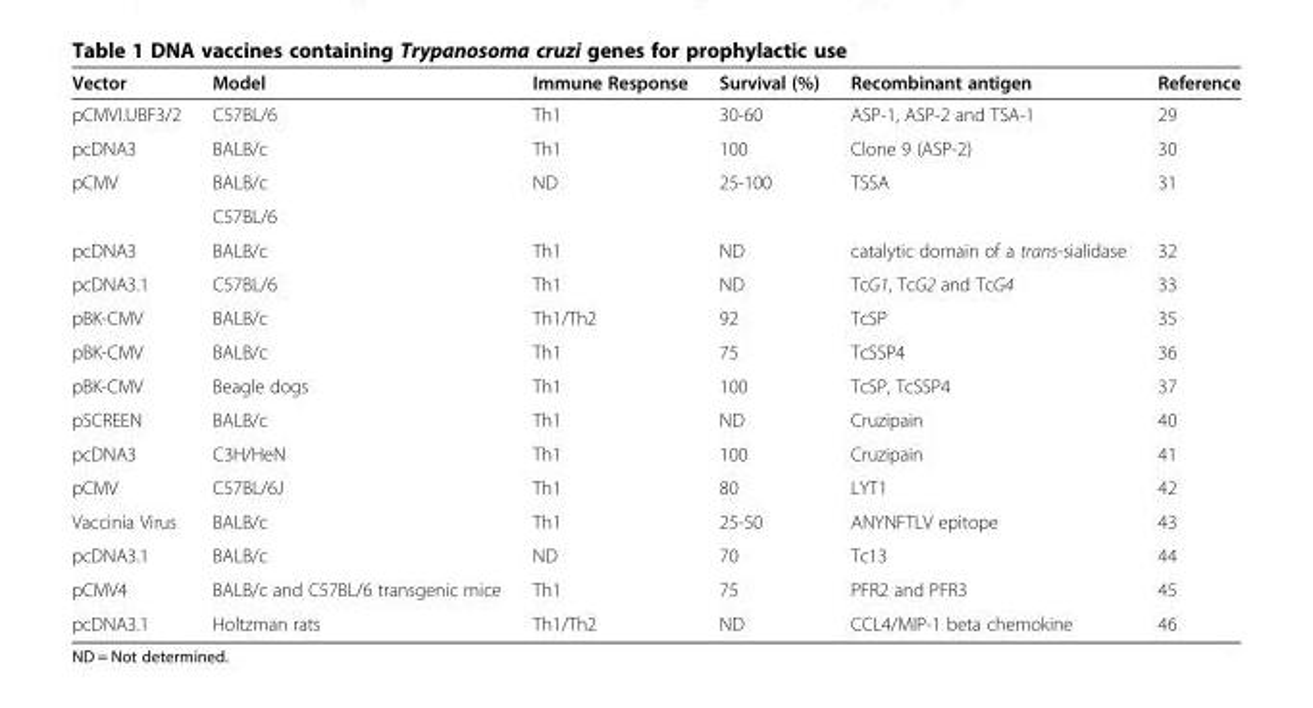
<table><thead><tr><td>Vector</td><td>Model</td><td>Immune Response</td><td>Survival (%)</td><td>Recombinant antigen</td><td>Reference</td></tr></thead><tbody><tr><td>pCMVI.UBF3/2</td><td>C57BL/6</td><td>Th1</td><td>30-60</td><td>ASP-1, ASP-2 and TSA-1</td><td>29</td></tr><tr><td>pcDNA3</td><td>BALB/c</td><td>Th1</td><td>100</td><td>Clone 9 (ASP-2)</td><td>30</td></tr><tr><td rowspan="2">pCMV</td><td>BALB/c</td><td rowspan="2">ND</td><td rowspan="2">25-100</td><td rowspan="2">TSSA</td><td rowspan="2">31</td></tr><tr><td>C57BL/6</td></tr><tr><td>pcDNA3</td><td>BALB/c</td><td>Th1</td><td>ND</td><td>catalytic domain of a trans-sialidase</td><td>32</td></tr><tr><td>pcDNA3.1</td><td>C57BL/6</td><td>Th1</td><td>ND</td><td>TcG1, TcG2 and TcG4</td><td>33</td></tr><tr><td>pBK-CMV</td><td>BALB/c</td><td>Th1/Th2</td><td>92</td><td>TcSP</td><td>35</td></tr><tr><td>pBK-CMV</td><td>BALB/c</td><td>Th1</td><td>75</td><td>TcSSP4</td><td>36</td></tr><tr><td>pBK-CMV</td><td>Beagle dogs</td><td>Th1</td><td>100</td><td>TcSP, TcSSP4</td><td>37</td></tr><tr><td>pSCREEN</td><td>BALB/c</td><td>Th1</td><td>ND</td><td>Cruzipain</td><td>40</td></tr><tr><td>pcDNA3</td><td>C3H/HeN</td><td>Th1</td><td>100</td><td>Cruzipain</td><td>41</td></tr><tr><td>pCMV</td><td>C57BL/6J</td><td>Th1</td><td>80</td><td>LYT1</td><td>42</td></tr><tr><td>Vaccinia Virus</td><td>BALB/c</td><td>Th1</td><td>25-50</td><td>ANYNFTLV epitope</td><td>43</td></tr><tr><td>pcDNA3.1</td><td>BALB/c</td><td>ND</td><td>70</td><td>Tc13</td><td>44</td></tr><tr><td>pCMV4</td><td>BALB/c and C57BL/6 transgenic mice</td><td>Th1</td><td>75</td><td>PFR2 and PFR3</td><td>45</td></tr><tr><td>pcDNA3.1</td><td>Holtzman rats</td><td>Th1/Th2</td><td>ND</td><td>CCL4/MIP-1 beta chemokine</td><td>46</td></tr></tbody></table>